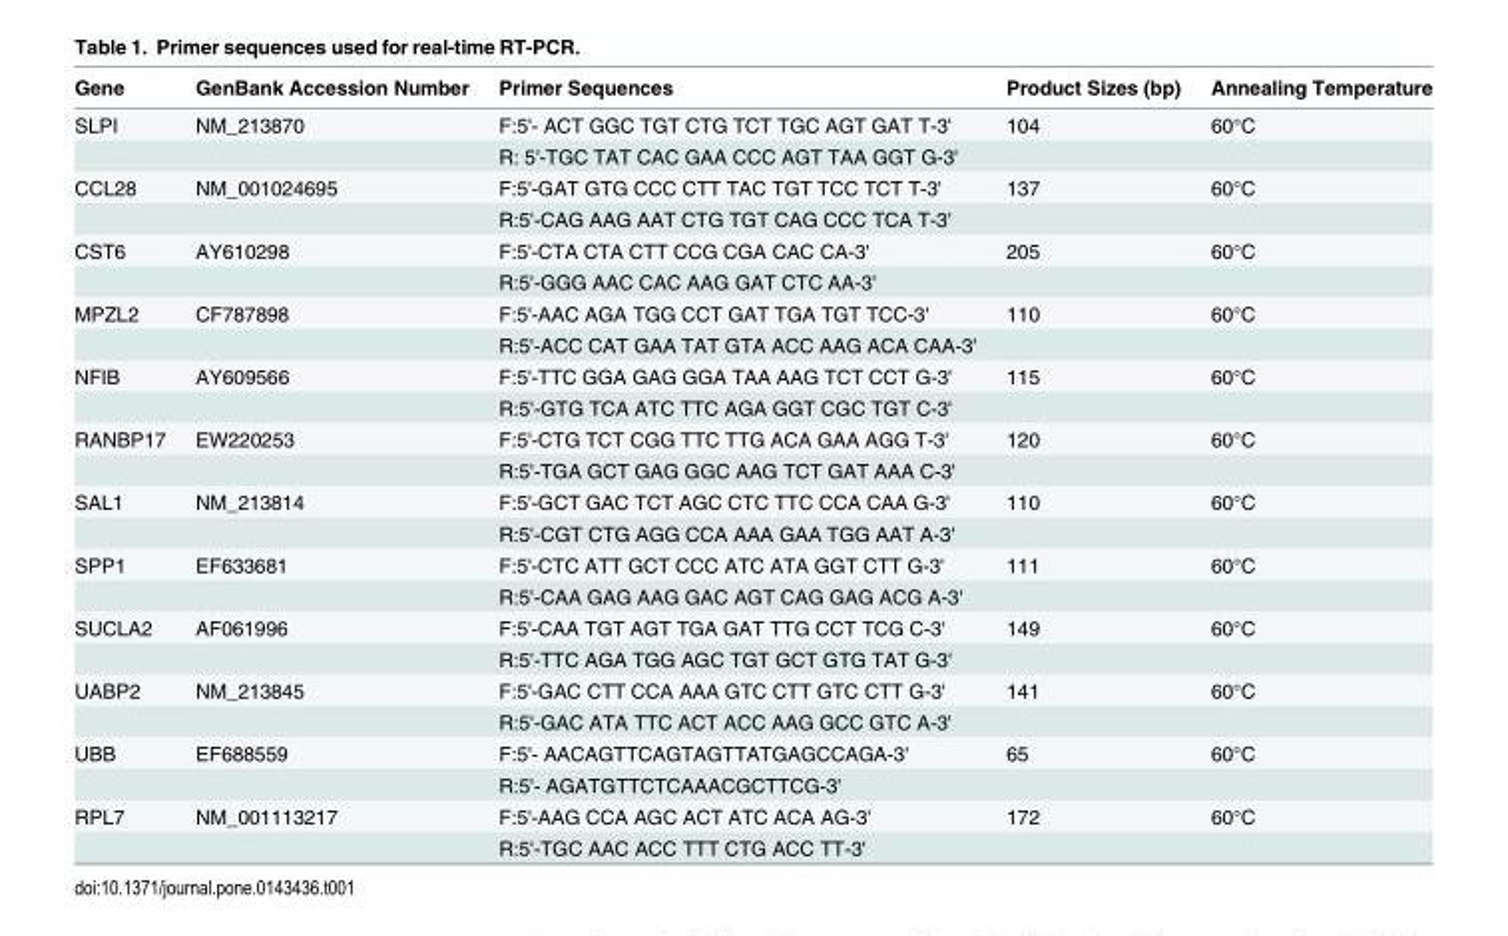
<table><thead><tr><td>Gene</td><td>GenBank Accession Number</td><td>Primer Sequences</td><td>Product Sizes (bp)</td><td>Annealing Temperature</td></tr></thead><tbody><tr><td rowspan="2">SLPI</td><td>NM_213870</td><td>F:5&#x27;- ACT GGC TGT CTG TCT TGC AGT GAT T-3&#x27;</td><td>104</td><td>60°C</td></tr><tr><td></td><td>R: 5&#x27;-TGC TAT CAC GAA CCC AGT TAA GGT G-3&#x27;</td><td></td><td></td></tr><tr><td rowspan="2">CCL28</td><td>NM_001024695</td><td>F:5&#x27;-GAT GTG CCC CTT TAC TGT TCC TCT T-3&#x27;</td><td>137</td><td>60°C</td></tr><tr><td></td><td>R:5&#x27;-CAG AAG AAT CTG TGT CAG CCC TCA T-3&#x27;</td><td></td><td></td></tr><tr><td rowspan="2">CST6</td><td>AY610298</td><td>F:5&#x27;-CTA CTA CTT CCG CGA CAC CA-3&#x27;</td><td>205</td><td>60°C</td></tr><tr><td></td><td>R:5&#x27;-GGG AAC CAC AAG GAT CTC AA-3&#x27;</td><td></td><td></td></tr><tr><td rowspan="2">MPZL2</td><td>CF787898</td><td>F:5&#x27;-AAC AGA TGG CCT GAT TGA TGT TCC-3&#x27;</td><td>110</td><td>60°C</td></tr><tr><td></td><td>R:5&#x27;-ACC CAT GAA TAT GTA ACC AAG ACA CAA-3&#x27;</td><td></td><td></td></tr><tr><td rowspan="2">NFIB</td><td>AY609566</td><td>F:5&#x27;-TTC GGA GAG GGA TAA AAG TCT CCT G-3&#x27;</td><td>115</td><td>60°C</td></tr><tr><td></td><td>R:5&#x27;-GTG TCA ATC TTC AGA GGT CGC TGT C-3&#x27;</td><td></td><td></td></tr><tr><td rowspan="2">RANBP17</td><td>EW220253</td><td>F:5&#x27;-CTG TCT CGG TTC TTG ACA GAA AGG T-3&#x27;</td><td>120</td><td>60°C</td></tr><tr><td></td><td>R:5&#x27;-TGA GCT GAG GGC AAG TCT GAT AAA C-3&#x27;</td><td></td><td></td></tr><tr><td rowspan="2">SAL1</td><td>NM_213814</td><td>F:5&#x27;-GCT GAC TCT AGC CTC TTC CCA CAA G-3&#x27;</td><td>110</td><td>60°C</td></tr><tr><td></td><td>R:5&#x27;-CGT CTG AGG CCA AAA GAA TGG AAT A-3&#x27;</td><td></td><td></td></tr><tr><td rowspan="2">SPP1</td><td>EF633681</td><td>F:5&#x27;-CTC ATT GCT CCC ATC ATA GGT CTT G-3&#x27;</td><td>111</td><td>60°C</td></tr><tr><td></td><td>R:5&#x27;-CAA GAG AAG GAC AGT CAG GAG ACG A-3&#x27;</td><td></td><td></td></tr><tr><td rowspan="2">SUCLA2</td><td>AF061996</td><td>F:5&#x27;-CAA TGT AGT TGA GAT TTG CCT TCG C-3&#x27;</td><td>149</td><td>60°C</td></tr><tr><td></td><td>R:5&#x27;-TTC AGA TGG AGC TGT GCT GTG TAT G-3&#x27;</td><td></td><td></td></tr><tr><td rowspan="2">UABP2</td><td>NM_213845</td><td>F:5&#x27;-GAC CTT CCA AAA GTC CTT GTC CTT G-3&#x27;</td><td>141</td><td>60°C</td></tr><tr><td></td><td>R:5&#x27;-GAC ATA TTC ACT ACC AAG GCC GTC A-3&#x27;</td><td></td><td></td></tr><tr><td rowspan="2">UBB</td><td>EF688559</td><td>F:5&#x27;- AACAGTTCAGTAGTTATGAGCCAGA-3&#x27;</td><td>65</td><td>60°C</td></tr><tr><td></td><td>R:5&#x27;- AGATGTTCTCAAACGCTTCG-3&#x27;</td><td></td><td></td></tr><tr><td rowspan="2">RPL7</td><td>NM_001113217</td><td>F:5&#x27;-AAG CCA AGC ACT ATC ACA AG-3&#x27;</td><td>172</td><td>60°C</td></tr><tr><td></td><td>R:5&#x27;-TGC AAC ACC TTT CTG ACC TT-3&#x27;</td><td></td><td></td></tr></tbody></table>